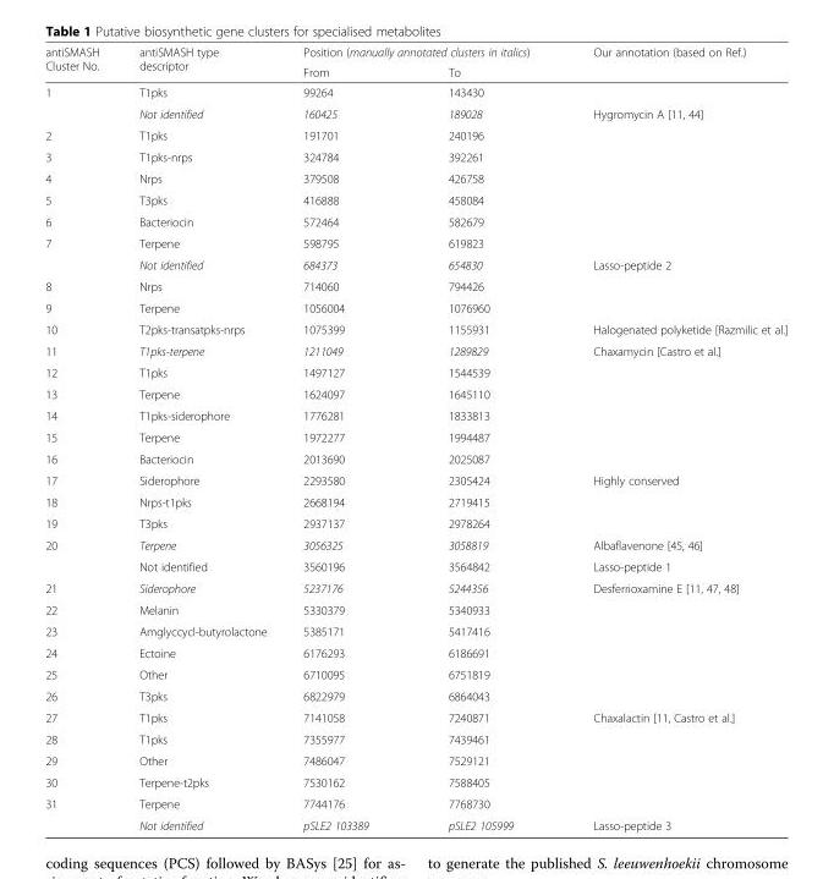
<table><thead><tr><td rowspan="2">antiSMASH Cluster No.</td><td rowspan="2">antiSMASH type descriptor</td><td colspan="2">Position (manually annotated clusters in italics)</td><td rowspan="2">Our annotation (based on Ref.)</td></tr><tr><td>From</td><td>To</td></tr></thead><tbody><tr><td rowspan="2">1</td><td>T1pks</td><td>99264</td><td>143430</td><td></td></tr><tr><td>Not identified</td><td>160425</td><td>189028</td><td>Hygromycin A [11, 44]</td></tr><tr><td>2</td><td>T1pks</td><td>191701</td><td>240196</td><td></td></tr><tr><td>3</td><td>T1pks-nrps</td><td>324784</td><td>392261</td><td></td></tr><tr><td>4</td><td>Nrps</td><td>379508</td><td>426758</td><td></td></tr><tr><td>5</td><td>T3pks</td><td>416888</td><td>458084</td><td></td></tr><tr><td>6</td><td>Bacteriocin</td><td>572464</td><td>582679</td><td></td></tr><tr><td rowspan="2">7</td><td>Terpene</td><td>598795</td><td>619823</td><td></td></tr><tr><td>Not identified</td><td>684373</td><td>654830</td><td>Lasso-peptide 2</td></tr><tr><td>8</td><td>Nrps</td><td>714060</td><td>794426</td><td></td></tr><tr><td>9</td><td>Terpene</td><td>1056004</td><td>1076960</td><td></td></tr><tr><td>10</td><td>T2pks-transatpks-nrps</td><td>1075399</td><td>1155931</td><td>Halogenated polyketide [Razmilic et al.]</td></tr><tr><td>11</td><td>T1pks-terpene</td><td>1211049</td><td>1289829</td><td>Chaxamycin [Castro et al.]</td></tr><tr><td>12</td><td>T1pks</td><td>1497127</td><td>1544539</td><td></td></tr><tr><td>13</td><td>Terpene</td><td>1624097</td><td>1645110</td><td></td></tr><tr><td>14</td><td>T1pks-siderophore</td><td>1776281</td><td>1833813</td><td></td></tr><tr><td>15</td><td>Terpene</td><td>1972277</td><td>1994487</td><td></td></tr><tr><td>16</td><td>Bacteriocin</td><td>2013690</td><td>2025087</td><td></td></tr><tr><td>17</td><td>Siderophore</td><td>2293580</td><td>2305424</td><td>Highly conserved</td></tr><tr><td>18</td><td>Nrps-t1pks</td><td>2668194</td><td>2719415</td><td></td></tr><tr><td>19</td><td>T3pks</td><td>2937137</td><td>2978264</td><td></td></tr><tr><td rowspan="2">20</td><td>Terpene</td><td>3056325</td><td>3058819</td><td>Albaflavenone [45, 46]</td></tr><tr><td>Not identified</td><td>3560196</td><td>3564842</td><td>Lasso-peptide 1</td></tr><tr><td>21</td><td>Siderophore</td><td>5237176</td><td>5244356</td><td>Desferrioxamine E [11, 47, 48]</td></tr><tr><td>22</td><td>Melanin</td><td>5330379</td><td>5340933</td><td></td></tr><tr><td>23</td><td>Amglyccycl-butyrolactone</td><td>5385171</td><td>5417416</td><td></td></tr><tr><td>24</td><td>Ectoine</td><td>6176293</td><td>6186691</td><td></td></tr><tr><td>25</td><td>Other</td><td>6710095</td><td>6751819</td><td></td></tr><tr><td>26</td><td>T3pks</td><td>6822979</td><td>6864043</td><td></td></tr><tr><td>27</td><td>T1pks</td><td>7141058</td><td>7240871</td><td>Chaxalactin [11, Castro et al.]</td></tr><tr><td>28</td><td>T1pks</td><td>7355977</td><td>7439461</td><td></td></tr><tr><td>29</td><td>Other</td><td>7486047</td><td>7529121</td><td></td></tr><tr><td>30</td><td>Terpene-t2pks</td><td>7530162</td><td>7588405</td><td></td></tr><tr><td rowspan="2">31</td><td>Terpene</td><td>7744176</td><td>7768730</td><td></td></tr><tr><td>Not identified</td><td>pSLE2 103389</td><td>pSLE2 105999</td><td>Lasso-peptide 3</td></tr></tbody></table>